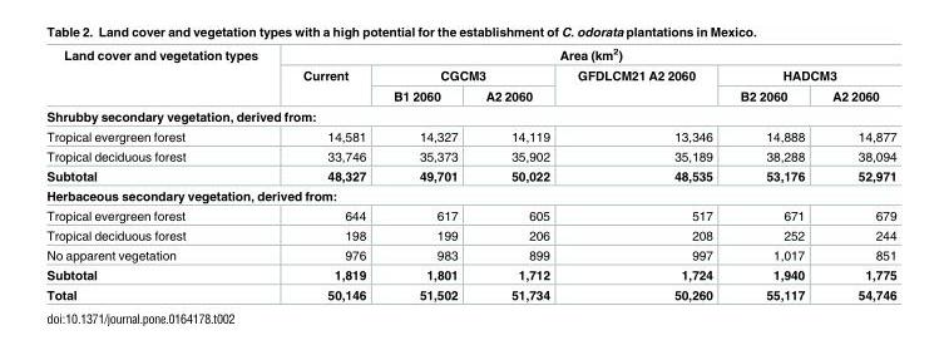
<table><thead><tr><td rowspan="3">Land cover and vegetation types</td><td colspan="6">Area (km<sup>2</sup>)</td></tr><tr><td rowspan="2">Current</td><td colspan="2">CGCM3</td><td rowspan="2">GFDLCM21 A2 2060</td><td colspan="2">HADCM3</td></tr><tr><td>B1 2060</td><td>A2 2060</td><td>B2 2060</td><td>A2 2060</td></tr></thead><tbody><tr><td colspan="7">Shrubby secondary vegetation, derived from:</td></tr><tr><td>Tropical evergreen forest</td><td>14,581</td><td>14,327</td><td>14,119</td><td>13,346</td><td>14,888</td><td>14,877</td></tr><tr><td>Tropical deciduous forest</td><td>33,746</td><td>35,373</td><td>35,902</td><td>35,189</td><td>38,288</td><td>38,094</td></tr><tr><td>Subtotal</td><td>48,327</td><td>49,701</td><td>50,022</td><td>48,535</td><td>53,176</td><td>52,971</td></tr><tr><td colspan="7">Herbaceous secondary vegetation, derived from:</td></tr><tr><td>Tropical evergreen forest</td><td>644</td><td>617</td><td>605</td><td>517</td><td>671</td><td>679</td></tr><tr><td>Tropical deciduous forest</td><td>198</td><td>199</td><td>206</td><td>208</td><td>252</td><td>244</td></tr><tr><td>No apparent vegetation</td><td>976</td><td>983</td><td>899</td><td>997</td><td>1,017</td><td>851</td></tr><tr><td>Subtotal</td><td>1,819</td><td>1,801</td><td>1,712</td><td>1,724</td><td>1,940</td><td>1,775</td></tr><tr><td>Total</td><td>50,146</td><td>51,502</td><td>51,734</td><td>50,260</td><td>55,117</td><td>54,746</td></tr></tbody></table>